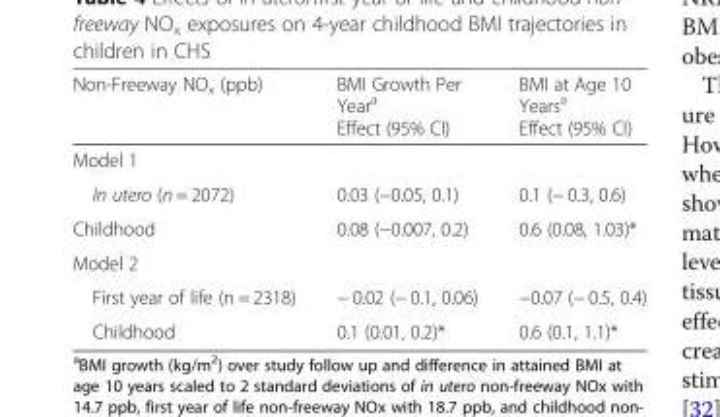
<table><thead><tr><td>Non-Freeway NO<sub>x</sub> (ppb)</td><td>BMI Growth Per Year<sup>a</sup> Effect (95% CI)</td><td>BMI at Age 10 Years<sup>a</sup> Effect (95% CI)</td></tr></thead><tbody><tr><td colspan="3">Model 1</td></tr><tr><td>In utero (n = 2072)</td><td>0.03 (−0.05, 0.1)</td><td>0.1 (− 0.3, 0.6)</td></tr><tr><td>Childhood</td><td>0.08 (−0.007, 0.2)</td><td>0.6 (0.08, 1.03)*</td></tr><tr><td colspan="3">Model 2</td></tr><tr><td>First year of life (n = 2318)</td><td>− 0.02 (− 0.1, 0.06)</td><td>−0.07 (− 0.5, 0.4)</td></tr><tr><td>Childhood</td><td>0.1 (0.01, 0.2)*</td><td>0.6 (0.1, 1.1)*</td></tr></tbody></table>